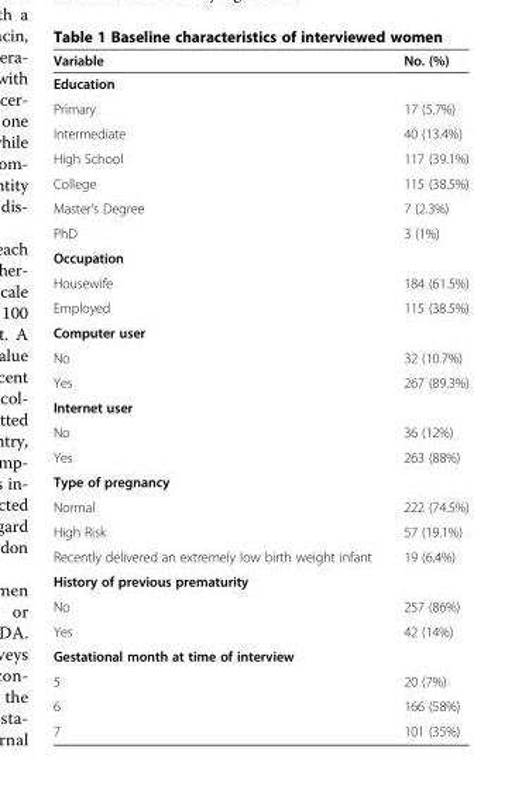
<table><thead><tr><td>Variable</td><td>No. (%)</td></tr></thead><tbody><tr><td colspan="2">Education</td></tr><tr><td>Primary</td><td>17 (5.7%)</td></tr><tr><td>Intermediate</td><td>40 (13.4%)</td></tr><tr><td>High School</td><td>117 (39.1%)</td></tr><tr><td>College</td><td>115 (38.5%)</td></tr><tr><td>Master’s Degree</td><td>7 (2.3%)</td></tr><tr><td>PhD</td><td>3 (1%)</td></tr><tr><td colspan="2">Occupation</td></tr><tr><td>Housewife</td><td>184 (61.5%)</td></tr><tr><td>Employed</td><td>115 (38.5%)</td></tr><tr><td colspan="2">Computer user</td></tr><tr><td>No</td><td>32 (10.7%)</td></tr><tr><td>Yes</td><td>267 (89.3%)</td></tr><tr><td colspan="2">Internet user</td></tr><tr><td>No</td><td>36 (12%)</td></tr><tr><td>Yes</td><td>263 (88%)</td></tr><tr><td colspan="2">Type of pregnancy</td></tr><tr><td>Normal</td><td>222 (74.5%)</td></tr><tr><td>High Risk</td><td>57 (19.1%)</td></tr><tr><td>Recently delivered an extremely low birth weight infant</td><td>19 (6.4%)</td></tr><tr><td colspan="2">History of previous prematurity</td></tr><tr><td>No</td><td>257 (86%)</td></tr><tr><td>Yes</td><td>42 (14%)</td></tr><tr><td colspan="2">Gestational month at time of interview</td></tr><tr><td>5</td><td>20 (7%)</td></tr><tr><td>6</td><td>166 (58%)</td></tr><tr><td>7</td><td>101 (35%)</td></tr></tbody></table>